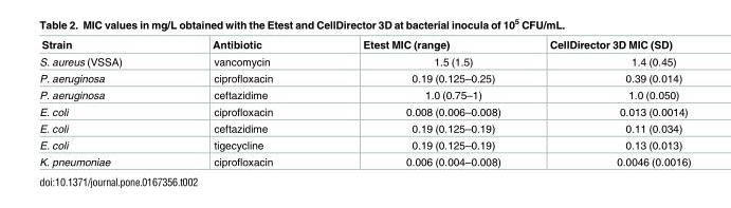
<table><thead><tr><td>Strain</td><td>Antibiotic</td><td>Etest MIC (range)</td><td>CellDirector 3D MIC (SD)</td></tr></thead><tbody><tr><td>S. aureus (VSSA)</td><td>vancomycin</td><td>1.5 (1.5)</td><td>1.4 (0.45)</td></tr><tr><td>P. aeruginosa</td><td>ciprofloxacin</td><td>0.19 (0.125–0.25)</td><td>0.39 (0.014)</td></tr><tr><td>P. aeruginosa</td><td>ceftazidime</td><td>1.0 (0.75–1)</td><td>1.0 (0.050)</td></tr><tr><td>E. coli</td><td>ciprofloxacin</td><td>0.008 (0.006–0.008)</td><td>0.013 (0.0014)</td></tr><tr><td>E. coli</td><td>ceftazidime</td><td>0.19 (0.125–0.19)</td><td>0.11 (0.034)</td></tr><tr><td>E. coli</td><td>tigecycline</td><td>0.19 (0.125–0.19)</td><td>0.13 (0.013)</td></tr><tr><td>K. pneumoniae</td><td>ciprofloxacin</td><td>0.006 (0.004–0.008)</td><td>0.0046 (0.0016)</td></tr></tbody></table>